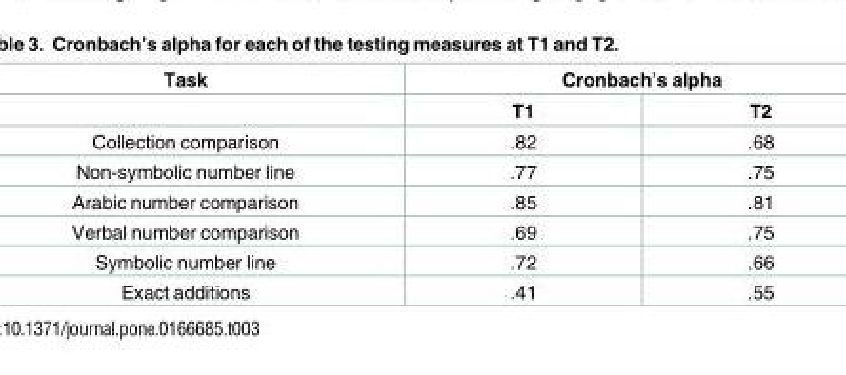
<table><thead><tr><td rowspan="2">Task</td><td colspan="2">Cronbach’s alpha</td></tr><tr><td>T1</td><td>T2</td></tr></thead><tbody><tr><td>Collection comparison</td><td>.82</td><td>.68</td></tr><tr><td>Non-symbolic number line</td><td>.77</td><td>.75</td></tr><tr><td>Arabic number comparison</td><td>.85</td><td>.81</td></tr><tr><td>Verbal number comparison</td><td>.69</td><td>.75</td></tr><tr><td>Symbolic number line</td><td>.72</td><td>.66</td></tr><tr><td>Exact additions</td><td>.41</td><td>.55</td></tr></tbody></table>